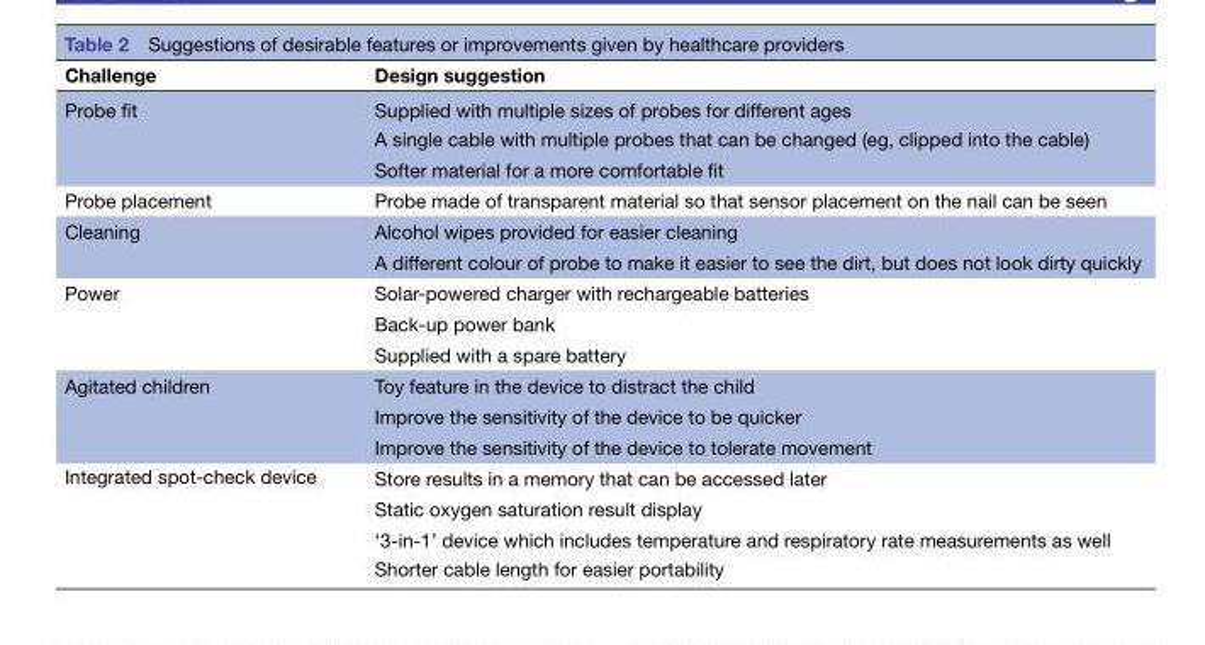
<table><thead><tr><td>Challenge</td><td>Design suggestion</td></tr></thead><tbody><tr><td rowspan="3">Probe fit</td><td>Supplied with multiple sizes of probes for different ages</td></tr><tr><td>A single cable with multiple probes that can be changed (eg, clipped into the cable)</td></tr><tr><td>Softer material for a more comfortable fit</td></tr><tr><td>Probe placement</td><td>Probe made of transparent material so that sensor placement on the nail can be seen</td></tr><tr><td rowspan="2">Cleaning</td><td>Alcohol wipes provided for easier cleaning</td></tr><tr><td>A different colour of probe to make it easier to see the dirt, but does not look dirty quickly</td></tr><tr><td rowspan="3">Power</td><td>Solar-powered charger with rechargeable batteries</td></tr><tr><td>Back-up power bank</td></tr><tr><td>Supplied with a spare battery</td></tr><tr><td rowspan="3">Agitated children</td><td>Toy feature in the device to distract the child</td></tr><tr><td>Improve the sensitivity of the device to be quicker</td></tr><tr><td>Improve the sensitivity of the device to tolerate movement</td></tr><tr><td rowspan="4">Integrated spot-check device</td><td>Store results in a memory that can be accessed later</td></tr><tr><td>Static oxygen saturation result display</td></tr><tr><td>‘3-in-1’ device which includes temperature and respiratory rate measurements as well</td></tr><tr><td>Shorter cable length for easier portability</td></tr></tbody></table>